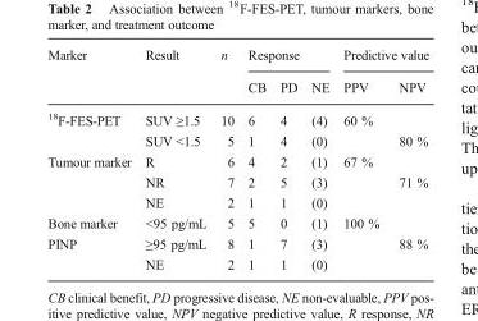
<table><thead><tr><td rowspan="2">Marker</td><td rowspan="2">Result</td><td rowspan="2">n</td><td colspan="3">Response</td><td colspan="2">Predictive value</td></tr><tr><td>CB</td><td>PD</td><td>NE</td><td>PPV</td><td>NPV</td></tr></thead><tbody><tr><td rowspan="2"><sup>18</sup>F-FES-PET</td><td>SUV ≥1.5</td><td>10</td><td>6</td><td>4</td><td>(4)</td><td>60 %</td><td></td></tr><tr><td>SUV &lt;1.5</td><td>5</td><td>1</td><td>4</td><td>(0)</td><td></td><td>80 %</td></tr><tr><td rowspan="3">Tumour marker</td><td>R</td><td>6</td><td>4</td><td>2</td><td>(1)</td><td>67 %</td><td></td></tr><tr><td>NR</td><td>7</td><td>2</td><td>5</td><td>(3)</td><td></td><td>71 %</td></tr><tr><td>NE</td><td>2</td><td>1</td><td>1</td><td>(0)</td><td></td><td></td></tr><tr><td>Bone marker</td><td>&lt;95 pg/mL</td><td>5</td><td>5</td><td>0</td><td>(1)</td><td>100 %</td><td></td></tr><tr><td rowspan="2">PINP</td><td>≥95 pg/mL</td><td>8</td><td>1</td><td>7</td><td>(3)</td><td></td><td>88 %</td></tr><tr><td>NE</td><td>2</td><td>1</td><td>1</td><td>(0)</td><td></td><td></td></tr></tbody></table>